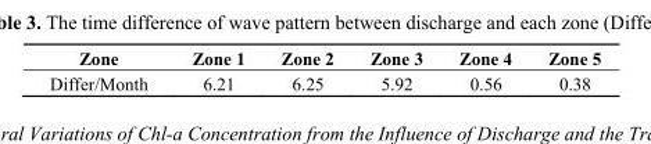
<table><thead><tr><td>Zone</td><td>Zone 1</td><td>Zone 2</td><td>Zone 3</td><td>Zone 4</td><td>Zone 5</td></tr></thead><tbody><tr><td>Differ/Month</td><td>6.21</td><td>6.25</td><td>5.92</td><td>0.56</td><td>0.38</td></tr></tbody></table>